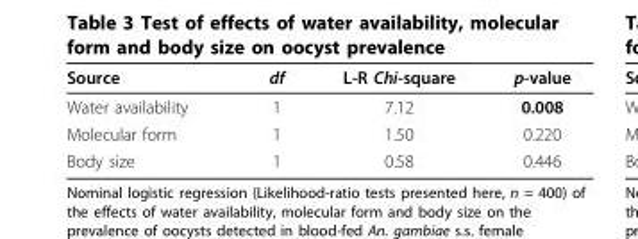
<table><thead><tr><td>Source</td><td>df</td><td>L-R Chi-square</td><td>p-value</td></tr></thead><tbody><tr><td>Water availability</td><td>1</td><td>7.12</td><td>0.008</td></tr><tr><td>Molecular form</td><td>1</td><td>1.50</td><td>0.220</td></tr><tr><td>Body size</td><td>1</td><td>0.58</td><td>0.446</td></tr></tbody></table>